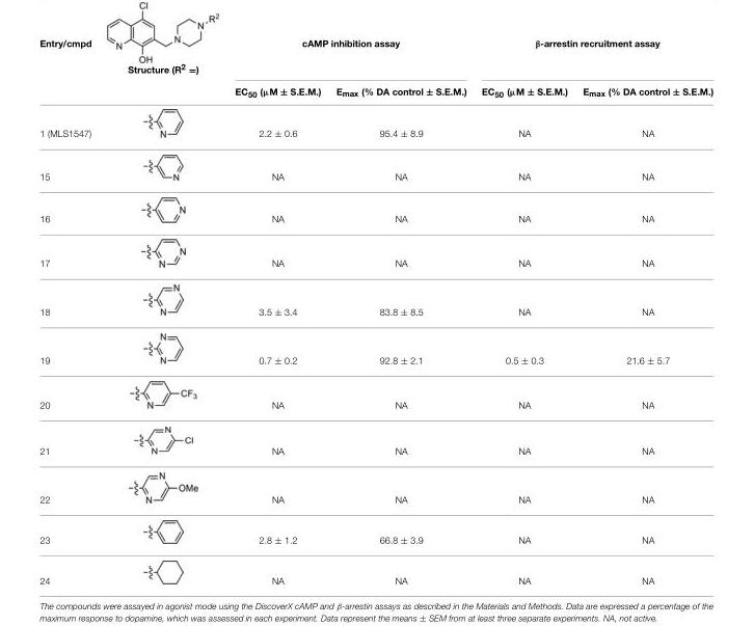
<table><thead><tr><td rowspan="2">Entry/cmpd</td><td rowspan="2">Structure (R2 =)</td><td colspan="2">cAMP inhibition assay</td><td colspan="2">β-arrestin recruitment assay</td></tr><tr><td>EC<sub>50</sub> (µM ± S.E.M.)</td><td>E<sub>max</sub> (% DA control ± S.E.M.)</td><td>EC<sub>50</sub> (µM ± S.E.M.)</td><td>E<sub>max</sub> (% DA control ± S.E.M.)</td></tr></thead><tbody><tr><td>1 (MLS1547)</td><td></td><td>2.2 ± 0.6</td><td>95.4 ± 8.9</td><td>NA</td><td>NA</td></tr><tr><td>15</td><td></td><td>NA</td><td>NA</td><td>NA</td><td>NA</td></tr><tr><td>16</td><td></td><td>NA</td><td>NA</td><td>NA</td><td>NA</td></tr><tr><td>17</td><td></td><td>NA</td><td>NA</td><td>NA</td><td>NA</td></tr><tr><td>18</td><td></td><td>3.5 ± 3.4</td><td>83.8 ± 8.5</td><td>NA</td><td>NA</td></tr><tr><td>19</td><td></td><td>0.7 ± 0.2</td><td>92.8 ± 2.1</td><td>0.5 ± 0.3</td><td>21.6 ± 5.7</td></tr><tr><td>20</td><td></td><td>NA</td><td>NA</td><td>NA</td><td>NA</td></tr><tr><td>21</td><td></td><td>NA</td><td>NA</td><td>NA</td><td>NA</td></tr><tr><td>22</td><td></td><td>NA</td><td>NA</td><td>NA</td><td>NA</td></tr><tr><td>23</td><td></td><td>2.8 ± 1.2</td><td>66.8 ± 3.9</td><td>NA</td><td>NA</td></tr><tr><td>24</td><td></td><td>NA</td><td>NA</td><td>NA</td><td>NA</td></tr></tbody></table>